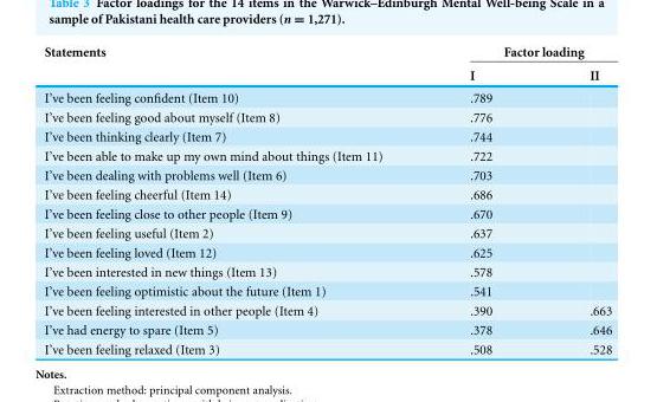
<table><thead><tr><td rowspan="2">Statements</td><td colspan="2">Factor loading</td></tr><tr><td>I</td><td>II</td></tr></thead><tbody><tr><td>I’ve been feeling confident (Item 10)</td><td>.789</td><td></td></tr><tr><td>I’ve been feeling good about myself (Item 8)</td><td>.776</td><td></td></tr><tr><td>I’ve been thinking clearly (Item 7)</td><td>.744</td><td></td></tr><tr><td>I’ve been able to make up my own mind about things (Item 11)</td><td>.722</td><td></td></tr><tr><td>I’ve been dealing with problems well (Item 6)</td><td>.703</td><td></td></tr><tr><td>I’ve been feeling cheerful (Item 14)</td><td>.686</td><td></td></tr><tr><td>I’ve been feeling close to other people (Item 9)</td><td>.670</td><td></td></tr><tr><td>I’ve been feeling useful (Item 2)</td><td>.637</td><td></td></tr><tr><td>I’ve been feeling loved (Item 12)</td><td>.625</td><td></td></tr><tr><td>I’ve been interested in new things (Item 13)</td><td>.578</td><td></td></tr><tr><td>I’ve been feeling optimistic about the future (Item 1)</td><td>.541</td><td></td></tr><tr><td>I’ve been feeling interested in other people (Item 4)</td><td>.390</td><td>.663</td></tr><tr><td>I’ve had energy to spare (Item 5)</td><td>.378</td><td>.646</td></tr><tr><td>I’ve been feeling relaxed (Item 3)</td><td>.508</td><td>.528</td></tr></tbody></table>